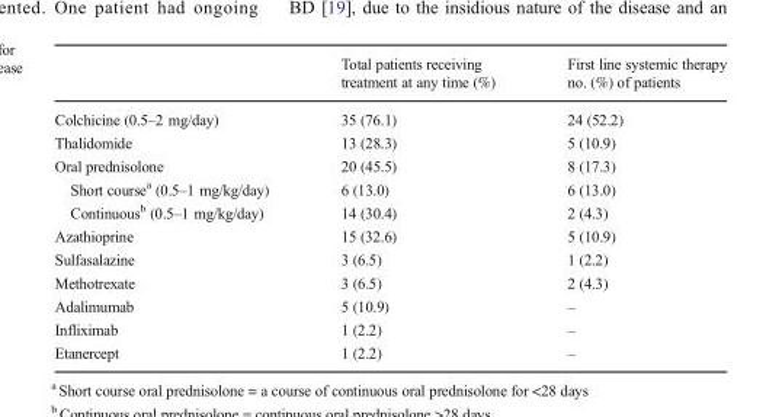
<table><thead><tr><td></td><td>Total patients receiving treatment at any time (%)</td><td>First line systemic therapy no. (%) of patients</td></tr></thead><tbody><tr><td>Colchicine (0.5–2 mg/day)</td><td>35 (76.1)</td><td>24 (52.2)</td></tr><tr><td>Thalidomide</td><td>13 (28.3)</td><td>5 (10.9)</td></tr><tr><td>Oral prednisolone</td><td>20 (45.5)</td><td>8 (17.3)</td></tr><tr><td>Short course<sup>a</sup> (0.5–1 mg/kg/day)</td><td>6 (13.0)</td><td>6 (13.0)</td></tr><tr><td>Continuous<sup>b</sup> (0.5–1 mg/kg/day)</td><td>14 (30.4)</td><td>2 (4.3)</td></tr><tr><td>Azathioprine</td><td>15 (32.6)</td><td>5 (10.9)</td></tr><tr><td>Sulfasalazine</td><td>3 (6.5)</td><td>1 (2.2)</td></tr><tr><td>Methotrexate</td><td>3 (6.5)</td><td>2 (4.3)</td></tr><tr><td>Adalimumab</td><td>5 (10.9)</td><td>–</td></tr><tr><td>Infliximab</td><td>1 (2.2)</td><td>–</td></tr><tr><td>Etanercept</td><td>1 (2.2)</td><td>–</td></tr></tbody></table>